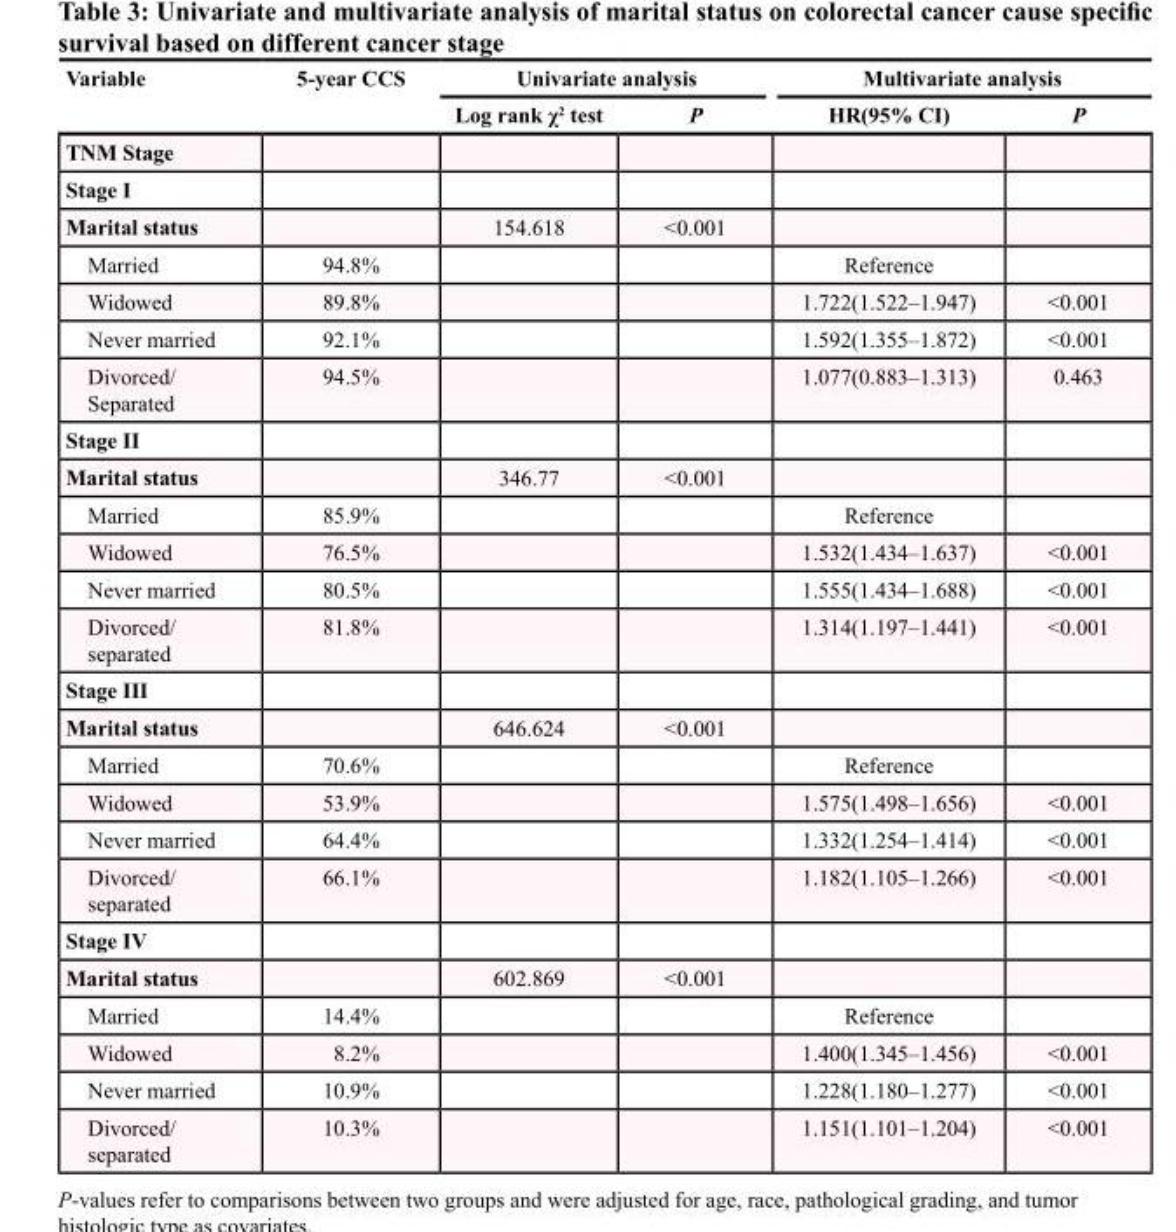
<table><thead><tr><td rowspan="2">Variable</td><td rowspan="2">5-year CCS</td><td colspan="2">Univariate analysis</td><td colspan="2">Multivariate analysis</td></tr><tr><td>Log rank χ<sup>2</sup> test</td><td>P</td><td>HR(95% CI)</td><td>P</td></tr></thead><tbody><tr><td colspan="6">TNM Stage</td></tr><tr><td colspan="6">Stage I</td></tr><tr><td>Marital status</td><td></td><td>154.618</td><td>&lt;0.001</td><td></td><td></td></tr><tr><td>Married</td><td>94.8%</td><td></td><td></td><td>Reference</td><td></td></tr><tr><td>Widowed</td><td>89.8%</td><td></td><td></td><td>1.722(1.522–1.947)</td><td>&lt;0.001</td></tr><tr><td>Never married</td><td>92.1%</td><td></td><td></td><td>1.592(1.355–1.872)</td><td>&lt;0.001</td></tr><tr><td>Divorced/ Separated</td><td>94.5%</td><td></td><td></td><td>1.077(0.883–1.313)</td><td>0.463</td></tr><tr><td colspan="6">Stage II</td></tr><tr><td>Marital status</td><td></td><td>346.77</td><td>&lt;0.001</td><td></td><td></td></tr><tr><td>Married</td><td>85.9%</td><td></td><td></td><td>Reference</td><td></td></tr><tr><td>Widowed</td><td>76.5%</td><td></td><td></td><td>1.532(1.434–1.637)</td><td>&lt;0.001</td></tr><tr><td>Never married</td><td>80.5%</td><td></td><td></td><td>1.555(1.434–1.688)</td><td>&lt;0.001</td></tr><tr><td>Divorced/ separated</td><td>81.8%</td><td></td><td></td><td>1.314(1.197–1.441)</td><td>&lt;0.001</td></tr><tr><td colspan="6">Stage III</td></tr><tr><td>Marital status</td><td></td><td>646.624</td><td>&lt;0.001</td><td></td><td></td></tr><tr><td>Married</td><td>70.6%</td><td></td><td></td><td>Reference</td><td></td></tr><tr><td>Widowed</td><td>53.9%</td><td></td><td></td><td>1.575(1.498–1.656)</td><td>&lt;0.001</td></tr><tr><td>Never married</td><td>64.4%</td><td></td><td></td><td>1.332(1.254–1.414)</td><td>&lt;0.001</td></tr><tr><td>Divorced/ separated</td><td>66.1%</td><td></td><td></td><td>1.182(1.105–1.266)</td><td>&lt;0.001</td></tr><tr><td colspan="6">Stage IV</td></tr><tr><td>Marital status</td><td></td><td>602.869</td><td>&lt;0.001</td><td></td><td></td></tr><tr><td>Married</td><td>14.4%</td><td></td><td></td><td>Reference</td><td></td></tr><tr><td>Widowed</td><td>8.2%</td><td></td><td></td><td>1.400(1.345–1.456)</td><td>&lt;0.001</td></tr><tr><td>Never married</td><td>10.9%</td><td></td><td></td><td>1.228(1.180–1.277)</td><td>&lt;0.001</td></tr><tr><td>Divorced/ separated</td><td>10.3%</td><td></td><td></td><td>1.151(1.101–1.204)</td><td>&lt;0.001</td></tr></tbody></table>